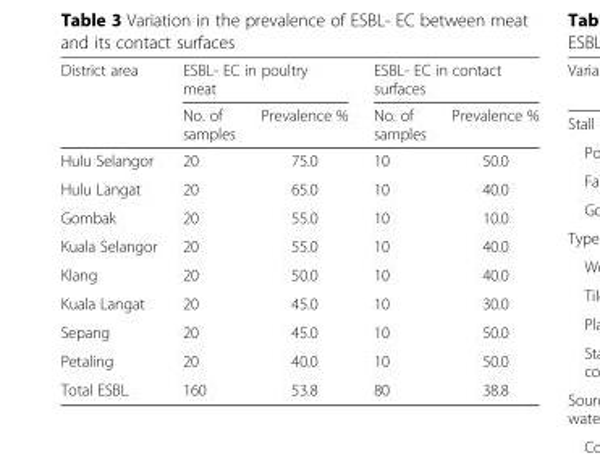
<table><thead><tr><td rowspan="2">District area</td><td colspan="2">ESBL- EC in poultry meat</td><td colspan="2">ESBL- EC in contact surfaces</td></tr><tr><td>No. of samples</td><td>Prevalence %</td><td>No. of samples</td><td>Prevalence %</td></tr></thead><tbody><tr><td>Hulu Selangor</td><td>20</td><td>75.0</td><td>10</td><td>50.0</td></tr><tr><td>Hulu Langat</td><td>20</td><td>65.0</td><td>10</td><td>40.0</td></tr><tr><td>Gombak</td><td>20</td><td>55.0</td><td>10</td><td>10.0</td></tr><tr><td>Kuala Selangor</td><td>20</td><td>55.0</td><td>10</td><td>40.0</td></tr><tr><td>Klang</td><td>20</td><td>50.0</td><td>10</td><td>40.0</td></tr><tr><td>Kuala Langat</td><td>20</td><td>45.0</td><td>10</td><td>30.0</td></tr><tr><td>Sepang</td><td>20</td><td>45.0</td><td>10</td><td>50.0</td></tr><tr><td>Petaling</td><td>20</td><td>40.0</td><td>10</td><td>50.0</td></tr><tr><td>Total ESBL</td><td>160</td><td>53.8</td><td>80</td><td>38.8</td></tr></tbody></table>